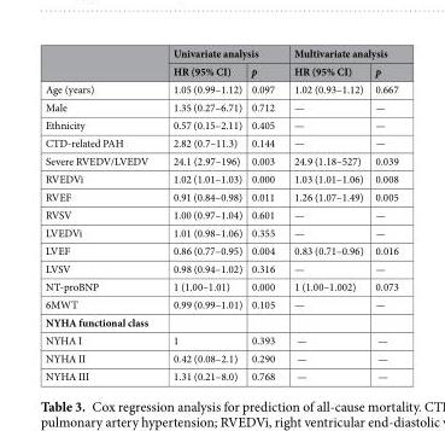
<table><thead><tr><td rowspan="2"></td><td colspan="2">Univariate analysis</td><td colspan="2">Multivariate analysis</td></tr><tr><td>HR (95% CI)</td><td>p</td><td>HR (95% CI)</td><td>p</td></tr></thead><tbody><tr><td>Age (years)</td><td>1.05 (0.99–1.12)</td><td>0.097</td><td>1.02 (0.93–1.12)</td><td>0.667</td></tr><tr><td>Male</td><td>1.35 (0.27–6.71)</td><td>0.712</td><td>—</td><td>—</td></tr><tr><td>Ethnicity</td><td>0.57 (0.15–2.11)</td><td>0.405</td><td>—</td><td>—</td></tr><tr><td>CTD-related PAH</td><td>2.82 (0.7–11.3)</td><td>0.144</td><td>—</td><td>—</td></tr><tr><td>Severe RVEDV/LVEDV</td><td>24.1 (2.97–196)</td><td>0.003</td><td>24.9 (1.18–527)</td><td>0.039</td></tr><tr><td>RVEDVi</td><td>1.02 (1.01–1.03)</td><td>0.000</td><td>1.03 (1.01–1.06)</td><td>0.008</td></tr><tr><td>RVEF</td><td>0.91 (0.84–0.98)</td><td>0.011</td><td>1.26 (1.07–1.49)</td><td>0.005</td></tr><tr><td>RVSV</td><td>1.00 (0.97–1.04)</td><td>0.601</td><td>—</td><td>—</td></tr><tr><td>LVEDVi</td><td>1.01 (0.98–1.06)</td><td>0.355</td><td>—</td><td>—</td></tr><tr><td>LVEF</td><td>0.86 (0.77–0.95)</td><td>0.004</td><td>0.83 (0.71–0.96)</td><td>0.016</td></tr><tr><td>LVSV</td><td>0.98 (0.94–1.02)</td><td>0.316</td><td>—</td><td>—</td></tr><tr><td>NT-proBNP</td><td>1 (1.00–1.01)</td><td>0.000</td><td>1 (1.00–1.002)</td><td>0.073</td></tr><tr><td>6MWT</td><td>0.99 (0.99–1.01)</td><td>0.105</td><td>—</td><td>—</td></tr><tr><td colspan="5">NYHA functional class</td></tr><tr><td>NYHA I</td><td>1</td><td>0.393</td><td>—</td><td>—</td></tr><tr><td>NYHA II</td><td>0.42 (0.08–2.1)</td><td>0.290</td><td>—</td><td>—</td></tr><tr><td>NYHA III</td><td>1.31 (0.21–8.0)</td><td>0.768</td><td>—</td><td>—</td></tr></tbody></table>